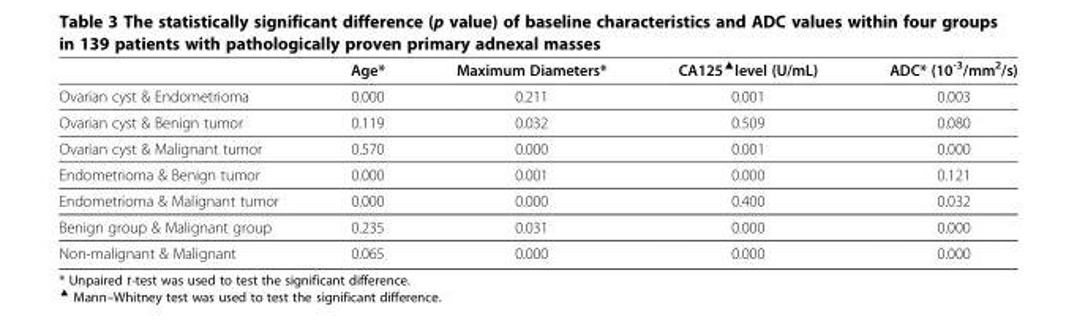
<table><thead><tr><td></td><td>Age*</td><td>Maximum Diameters*</td><td>CA125<sup>▲</sup>level (U/mL)</td><td>ADC* (10<sup>-3</sup>/mm<sup>2</sup>/s)</td></tr></thead><tbody><tr><td>Ovarian cyst &amp; Endometrioma</td><td>0.000</td><td>0.211</td><td>0.001</td><td>0.003</td></tr><tr><td>Ovarian cyst &amp; Benign tumor</td><td>0.119</td><td>0.032</td><td>0.509</td><td>0.080</td></tr><tr><td>Ovarian cyst &amp; Malignant tumor</td><td>0.570</td><td>0.000</td><td>0.001</td><td>0.000</td></tr><tr><td>Endometrioma &amp; Benign tumor</td><td>0.000</td><td>0.001</td><td>0.000</td><td>0.121</td></tr><tr><td>Endometrioma &amp; Malignant tumor</td><td>0.000</td><td>0.000</td><td>0.400</td><td>0.032</td></tr><tr><td>Benign group &amp; Malignant group</td><td>0.235</td><td>0.031</td><td>0.000</td><td>0.000</td></tr><tr><td>Non-malignant &amp; Malignant</td><td>0.065</td><td>0.000</td><td>0.000</td><td>0.000</td></tr></tbody></table>